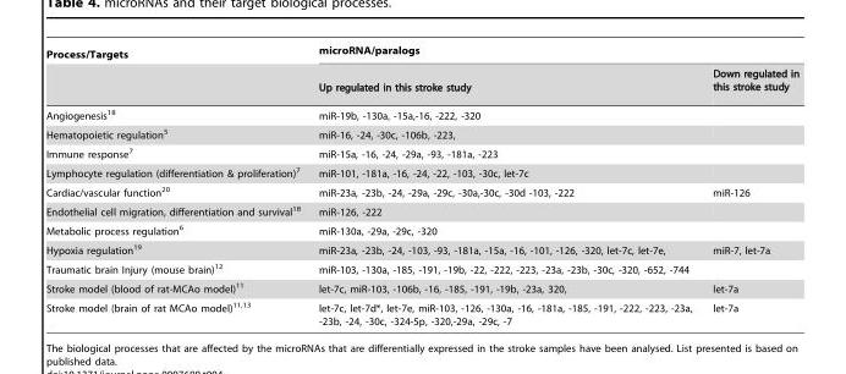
<table><thead><tr><td rowspan="2">Process/Targets</td><td colspan="2">microRNA/paralogs</td></tr><tr><td>Up regulated in this stroke study</td><td>Down regulated in this stroke study</td></tr></thead><tbody><tr><td>Angiogenesis<sup>18</sup></td><td>miR-19b, -130a, -15a,-16, -222, -320</td><td></td></tr><tr><td>Hematopoietic regulation<sup>5</sup></td><td>miR-16, -24, -30c, -106b, -223,</td><td></td></tr><tr><td>Immune response<sup>7</sup></td><td>miR-15a, -16, -24, -29a, -93, -181a, -223</td><td></td></tr><tr><td>Lymphocyte regulation (differentiation &amp; proliferation)<sup>7</sup></td><td>miR-101, -181a, -16, -24, -22, -103, -30c, let-7c</td><td></td></tr><tr><td>Cardiac/vascular function<sup>20</sup></td><td>miR-23a, -23b, -24, -29a, -29c, -30a,-30c, -30d -103, -222</td><td>miR-126</td></tr><tr><td>Endothelial cell migration, differentiation and survival<sup>18</sup></td><td>miR-126, -222</td><td></td></tr><tr><td>Metabolic process regulation<sup>6</sup></td><td>miR-130a, -29a, -29c, -320</td><td></td></tr><tr><td>Hypoxia regulation<sup>19</sup></td><td>miR-23a, -23b, -24, -103, -93, -181a, -15a, -16, -101, -126, -320, let-7c, let-7e,</td><td>miR-7, let-7a</td></tr><tr><td>Traumatic brain Injury (mouse brain)<sup>12</sup></td><td>miR-103, -130a, -185, -191, -19b, -22, -222, -223, -23a, -23b, -30c, -320, -652, -744</td><td></td></tr><tr><td>Stroke model (blood of rat-MCAo model)<sup>11</sup></td><td>let-7c, miR-103, -106b, -16, -185, -191, -19b, -23a, 320,</td><td>let-7a</td></tr><tr><td>Stroke model (brain of rat MCAo model)<sup>11,13</sup></td><td>let-7c, let-7d*, let-7e, miR-103, -126, -130a, -16, -181a, -185, -191, -222, -223, -23a, -23b, -24, -30c, -324-5p, -320,-29a, -29c, -7</td><td>let-7a</td></tr></tbody></table>